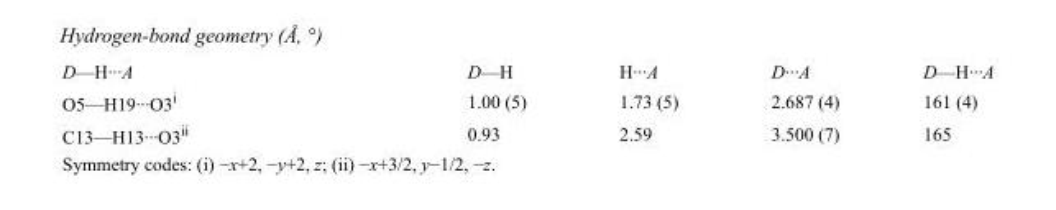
<table><tbody><tr><td>D—H···A</td><td>D—H</td><td>H···A</td><td>D···A</td><td>D—H···A</td></tr><tr><td>O5—H19···O3<sup>i</sup></td><td>1.00 (5)</td><td>1.73 (5)</td><td>2.687 (4)</td><td>161 (4)</td></tr><tr><td>C13—H13···O3<sup>ii</sup></td><td>0.93</td><td>2.59</td><td>3.500 (7)</td><td>165</td></tr></tbody></table>